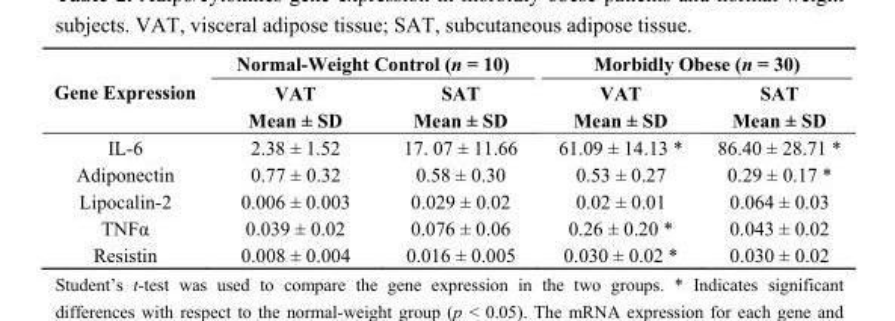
<table><thead><tr><td rowspan="3">Gene Expression</td><td colspan="2">Normal-Weight Control (n = 10)</td><td colspan="2">Morbidly Obese (n = 30)</td></tr><tr><td rowspan="2">VAT Mean ± SD</td><td rowspan="2">SAT Mean ± SD</td><td rowspan="2">VAT Mean ± SD</td><td rowspan="2">SAT Mean ± SD</td></tr><tr></tr></thead><tbody><tr><td>IL-6</td><td>2.38 ± 1.52</td><td>17. 07 ± 11.66</td><td>61.09 ± 14.13 *</td><td>86.40 ± 28.71 *</td></tr><tr><td>Adiponectin</td><td>0.77 ± 0.32</td><td>0.58 ± 0.30</td><td>0.53 ± 0.27</td><td>0.29 ± 0.17 *</td></tr><tr><td>Lipocalin-2</td><td>0.006 ± 0.003</td><td>0.029 ± 0.02</td><td>0.02 ± 0.01</td><td>0.064 ± 0.03</td></tr><tr><td>TNFα</td><td>0.039 ± 0.02</td><td>0.076 ± 0.06</td><td>0.26 ± 0.20 *</td><td>0.043 ± 0.02</td></tr><tr><td>Resistin</td><td>0.008 ± 0.004</td><td>0.016 ± 0.005</td><td>0.030 ± 0.02 *</td><td>0.030 ± 0.02</td></tr></tbody></table>